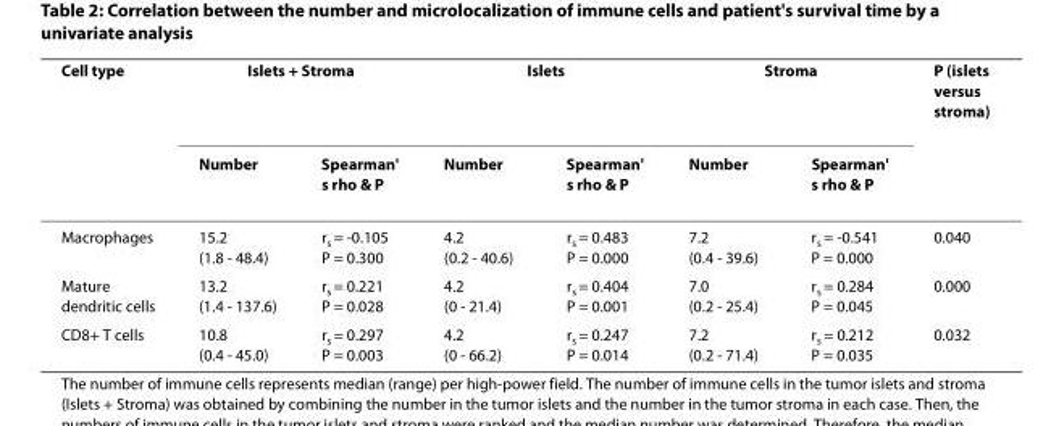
<table><thead><tr><td rowspan="2">Cell type</td><td colspan="2">Islets + Stroma</td><td colspan="2">Islets</td><td colspan="2">Stroma</td><td rowspan="2">P (islets versus stroma)</td></tr><tr><td>Number</td><td>Spearman&#x27; s rho &amp; P</td><td>Number</td><td>Spearman&#x27; s rho &amp; P</td><td>Number</td><td>Spearman&#x27; s rho &amp; P</td></tr></thead><tbody><tr><td>Macrophages</td><td>15.2 (1.8 - 48.4)</td><td>r<sub>s</sub> = -0.105 P = 0.300</td><td>4.2 (0.2 - 40.6)</td><td>r<sub>s</sub> = 0.483 P = 0.000</td><td>7.2 (0.4 - 39.6)</td><td>r<sub>s</sub> = -0.541 P = 0.000</td><td>0.040</td></tr><tr><td>Mature dendritic cells</td><td>13.2 (1.4 - 137.6)</td><td>r<sub>s</sub> = 0.221 P = 0.028</td><td>4.2 (0 - 21.4)</td><td>r<sub>s</sub> = 0.404 P = 0.001</td><td>7.0 (0.2 - 25.4)</td><td>r<sub>s</sub> = 0.284 P = 0.045</td><td>0.000</td></tr><tr><td>CD8+ T cells</td><td>10.8 (0.4 - 45.0)</td><td>r<sub>s</sub> = 0.297 P = 0.003</td><td>4.2 (0 - 66.2)</td><td>r<sub>s</sub> = 0.247 P = 0.014</td><td>7.2 (0.2 - 71.4)</td><td>r<sub>s</sub> = 0.212 P = 0.035</td><td>0.032</td></tr></tbody></table>